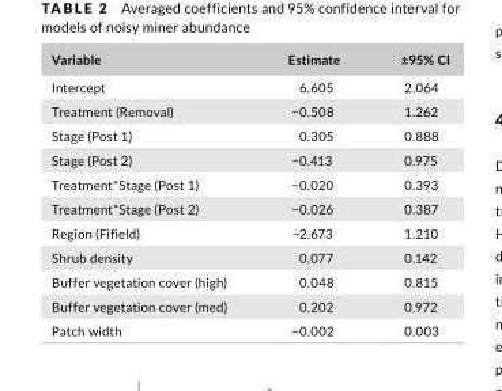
<table><thead><tr><td>Variable</td><td>Estimate</td><td>±95% CI</td></tr></thead><tbody><tr><td>Intercept</td><td>6.605</td><td>2.064</td></tr><tr><td>Treatment (Removal)</td><td>−0.508</td><td>1.262</td></tr><tr><td>Stage (Post 1)</td><td>0.305</td><td>0.888</td></tr><tr><td>Stage (Post 2)</td><td>−0.413</td><td>0.975</td></tr><tr><td>Treatment*Stage (Post 1)</td><td>−0.020</td><td>0.393</td></tr><tr><td>Treatment*Stage (Post 2)</td><td>−0.026</td><td>0.387</td></tr><tr><td>Region (Fifield)</td><td>−2.673</td><td>1.210</td></tr><tr><td>Shrub density</td><td>0.077</td><td>0.142</td></tr><tr><td>Buffer vegetation cover (high)</td><td>0.048</td><td>0.815</td></tr><tr><td>Buffer vegetation cover (med)</td><td>0.202</td><td>0.972</td></tr><tr><td>Patch width</td><td>−0.002</td><td>0.003</td></tr></tbody></table>